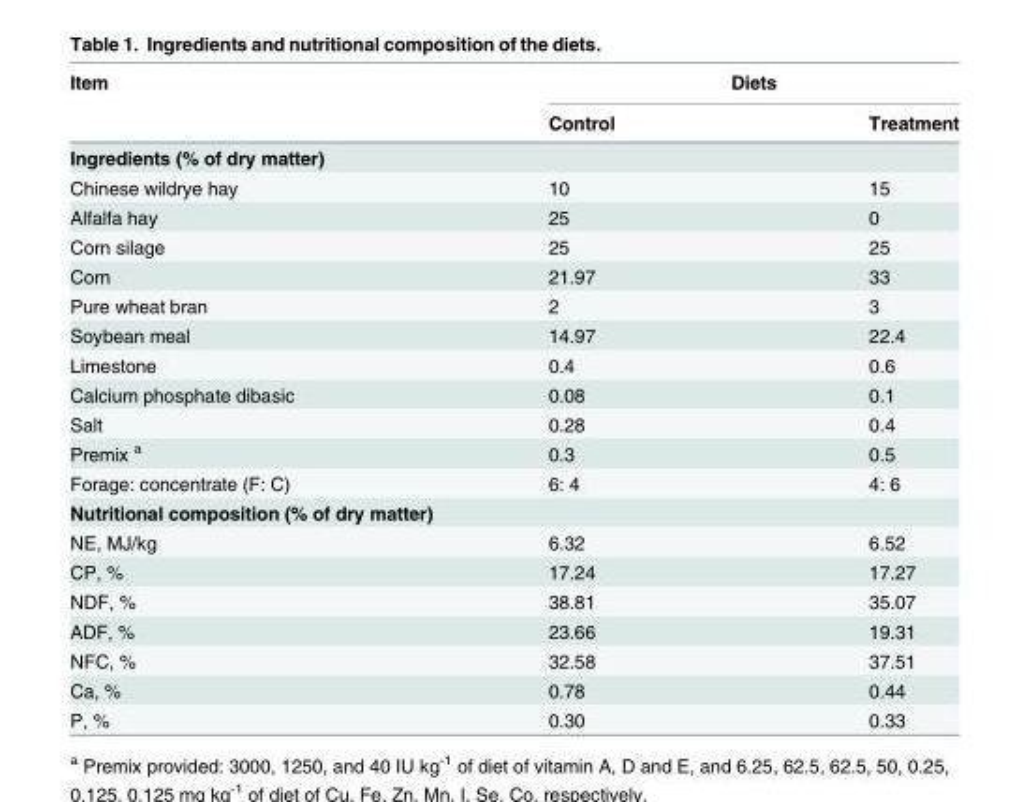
<table><thead><tr><td rowspan="2">Item</td><td colspan="2">Diets</td></tr><tr><td>Control</td><td>Treatment</td></tr></thead><tbody><tr><td colspan="3">Ingredients (% of dry matter)</td></tr><tr><td>Chinese wildrye hay</td><td>10</td><td>15</td></tr><tr><td>Alfalfa hay</td><td>25</td><td>0</td></tr><tr><td>Corn silage</td><td>25</td><td>25</td></tr><tr><td>Corn</td><td>21.97</td><td>33</td></tr><tr><td>Pure wheat bran</td><td>2</td><td>3</td></tr><tr><td>Soybean meal</td><td>14.97</td><td>22.4</td></tr><tr><td>Limestone</td><td>0.4</td><td>0.6</td></tr><tr><td>Calcium phosphate dibasic</td><td>0.08</td><td>0.1</td></tr><tr><td>Salt</td><td>0.28</td><td>0.4</td></tr><tr><td>Premix <sup>a</sup></td><td>0.3</td><td>0.5</td></tr><tr><td>Forage: concentrate (F: C)</td><td>6: 4</td><td>4: 6</td></tr><tr><td colspan="3">Nutritional composition (% of dry matter)</td></tr><tr><td>NE, MJ/kg</td><td>6.32</td><td>6.52</td></tr><tr><td>CP, %</td><td>17.24</td><td>17.27</td></tr><tr><td>NDF, %</td><td>38.81</td><td>35.07</td></tr><tr><td>ADF, %</td><td>23.66</td><td>19.31</td></tr><tr><td>NFC, %</td><td>32.58</td><td>37.51</td></tr><tr><td>Ca, %</td><td>0.78</td><td>0.44</td></tr><tr><td>P, %</td><td>0.30</td><td>0.33</td></tr></tbody></table>